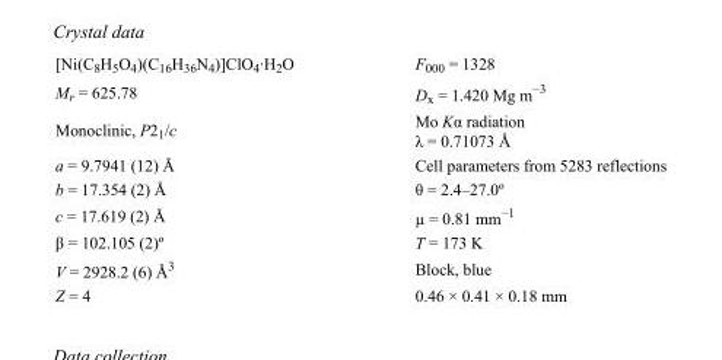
<table><tbody><tr><td>[Ni(C<sub>8</sub>H<sub>5</sub>O<sub>4</sub>)(C<sub>16</sub>H<sub>36</sub>N<sub>4</sub>)]ClO<sub>4</sub>·H<sub>2</sub>O</td><td>F000 = 1328</td></tr><tr><td>M<sub>r</sub> = 625.78</td><td>D<sub>x</sub> = 1.420 Mg m<sup>−3</sup></td></tr><tr><td>Monoclinic, P2<sub>1</sub>/c</td><td>Mo Kα radiation λ = 0.71073 Å</td></tr><tr><td>a = 9.7941 (12) Å</td><td>Cell parameters from 5283 reflections</td></tr><tr><td>b = 17.354 (2) Å</td><td>θ = 2.4–27.0º</td></tr><tr><td>c = 17.619 (2) Å</td><td>µ = 0.81 mm<sup>−1</sup></td></tr><tr><td>β = 102.105 (2)º</td><td>T = 173 K</td></tr><tr><td>V = 2928.2 (6) Å<sup>3</sup></td><td>Block, blue</td></tr><tr><td>Z = 4</td><td>0.46 × 0.41 × 0.18 mm</td></tr></tbody></table>